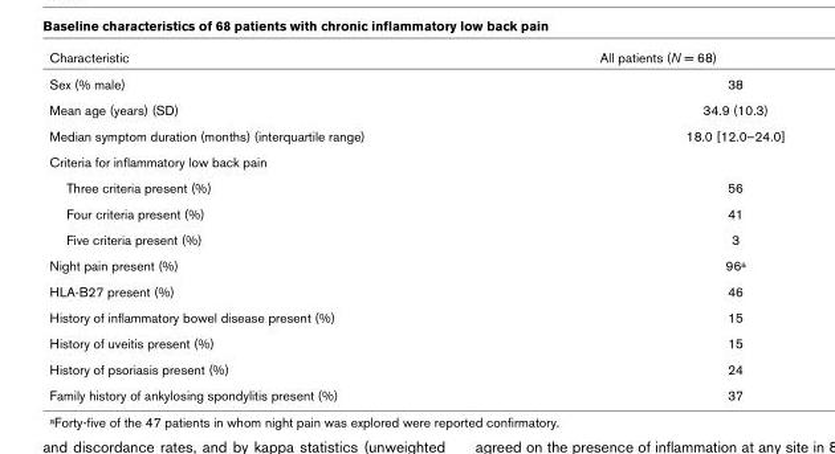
<table><thead><tr><td>Characteristic</td><td>All patients (N = 68)</td></tr></thead><tbody><tr><td>Sex (% male)</td><td>38</td></tr><tr><td>Mean age (years) (SD)</td><td>34.9 (10.3)</td></tr><tr><td>Median symptom duration (months) (interquartile range)</td><td>18.0 [12.0–24.0]</td></tr><tr><td colspan="2">Criteria for inflammatory low back pain</td></tr><tr><td>Three criteria present (%)</td><td>56</td></tr><tr><td>Four criteria present (%)</td><td>41</td></tr><tr><td>Five criteria present (%)</td><td>3</td></tr><tr><td>Night pain present (%)</td><td>96a</td></tr><tr><td>HLA-B27 present (%)</td><td>46</td></tr><tr><td>History of inflammatory bowel disease present (%)</td><td>15</td></tr><tr><td>History of uveitis present (%)</td><td>15</td></tr><tr><td>History of psoriasis present (%)</td><td>24</td></tr><tr><td>Family history of ankylosing spondylitis present (%)</td><td>37</td></tr></tbody></table>